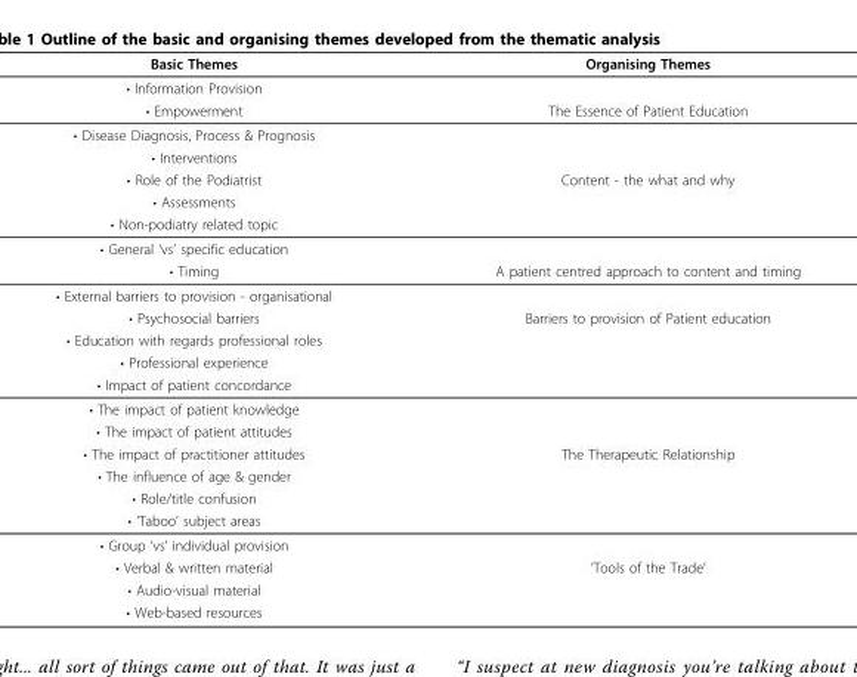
<table><thead><tr><td>Basic Themes</td><td>Organising Themes</td></tr></thead><tbody><tr><td colspan="2">• Information Provision</td></tr><tr><td>• Empowerment</td><td>The Essence of Patient Education</td></tr><tr><td colspan="2">• Disease Diagnosis, Process &amp; Prognosis</td></tr><tr><td colspan="2">• Interventions</td></tr><tr><td>• Role of the Podiatrist</td><td>Content - the what and why</td></tr><tr><td colspan="2">• Assessments</td></tr><tr><td colspan="2">• Non-podiatry related topic</td></tr><tr><td colspan="2">• General ‘vs’ specific education</td></tr><tr><td>• Timing</td><td>A patient centred approach to content and timing</td></tr><tr><td colspan="2">• External barriers to provision - organisational</td></tr><tr><td>• Psychosocial barriers</td><td>Barriers to provision of Patient education</td></tr><tr><td colspan="2">• Education with regards professional roles</td></tr><tr><td colspan="2">• Professional experience</td></tr><tr><td colspan="2">• Impact of patient concordance</td></tr><tr><td colspan="2">• The impact of patient knowledge</td></tr><tr><td colspan="2">• The impact of patient attitudes</td></tr><tr><td>• The impact of practitioner attitudes</td><td>The Therapeutic Relationship</td></tr><tr><td colspan="2">• The influence of age &amp; gender</td></tr><tr><td colspan="2">• Role/title confusion</td></tr><tr><td colspan="2">• ‘Taboo’ subject areas</td></tr><tr><td colspan="2">• Group ‘vs’ individual provision</td></tr><tr><td>• Verbal &amp; written material</td><td>’Tools of the Trade’</td></tr><tr><td colspan="2">• Audio-visual material</td></tr><tr><td>• Web-based resources</td><td></td></tr></tbody></table>